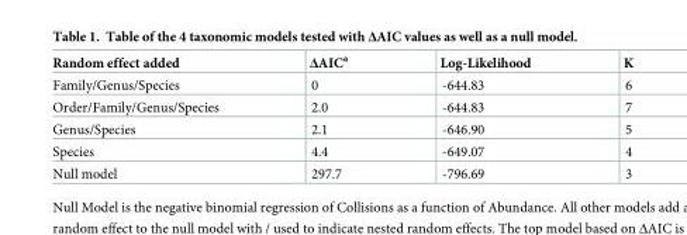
<table><thead><tr><td>Random effect added</td><td>ΔAIC<sup>a</sup></td><td>Log-Likelihood</td><td>K</td></tr></thead><tbody><tr><td>Family/Genus/Species</td><td>0</td><td>-644.83</td><td>6</td></tr><tr><td>Order/Family/Genus/Species</td><td>2.0</td><td>-644.83</td><td>7</td></tr><tr><td>Genus/Species</td><td>2.1</td><td>-646.90</td><td>5</td></tr><tr><td>Species</td><td>4.4</td><td>-649.07</td><td>4</td></tr><tr><td>Null model</td><td>297.7</td><td>-796.69</td><td>3</td></tr></tbody></table>